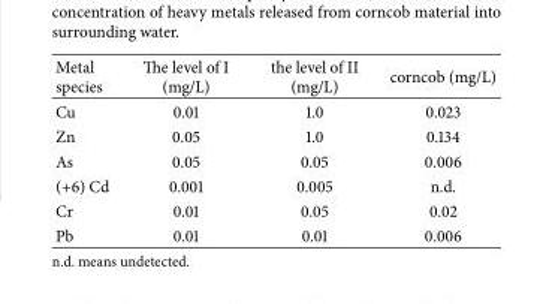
<table><thead><tr><td>Metal species</td><td>The level of I (mg/L)</td><td>the level of II (mg/L)</td><td>corncob (mg/L)</td></tr></thead><tbody><tr><td>Cu</td><td>0.01</td><td>1.0</td><td>0.023</td></tr><tr><td>Zn</td><td>0.05</td><td>1.0</td><td>0.134</td></tr><tr><td>As</td><td>0.05</td><td>0.05</td><td>0.006</td></tr><tr><td>(+6) Cd</td><td>0.001</td><td>0.005</td><td>n.d.</td></tr><tr><td>Cr</td><td>0.01</td><td>0.05</td><td>0.02</td></tr><tr><td>Pb</td><td>0.01</td><td>0.01</td><td>0.006</td></tr></tbody></table>